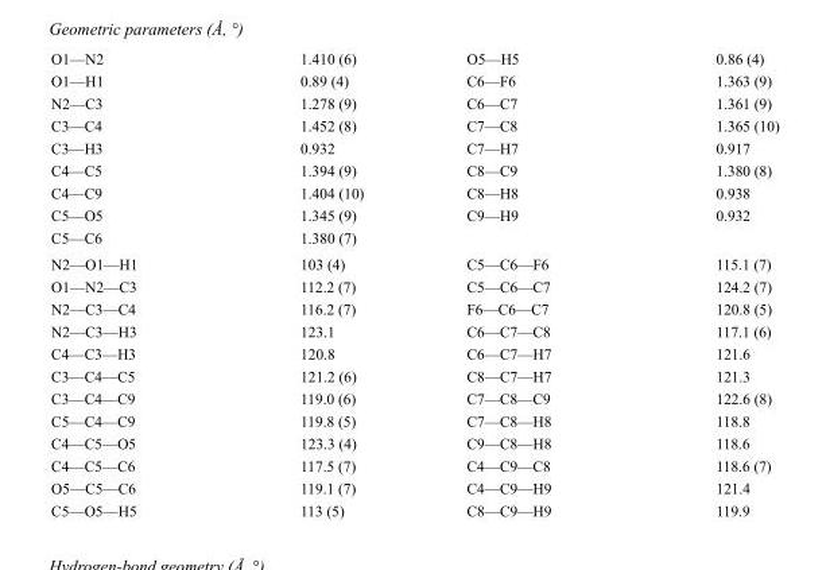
<table><tbody><tr><td>O1—N2</td><td>1.410 (6)</td><td>O5—H5</td><td>0.86 (4)</td></tr><tr><td>O1—H1</td><td>0.89 (4)</td><td>C6—F6</td><td>1.363 (9)</td></tr><tr><td>N2—C3</td><td>1.278 (9)</td><td>C6—C7</td><td>1.361 (9)</td></tr><tr><td>C3—C4</td><td>1.452 (8)</td><td>C7—C8</td><td>1.365 (10)</td></tr><tr><td>C3—H3</td><td>0.932</td><td>C7—H7</td><td>0.917</td></tr><tr><td>C4—C5</td><td>1.394 (9)</td><td>C8—C9</td><td>1.380 (8)</td></tr><tr><td>C4—C9</td><td>1.404 (10)</td><td>C8—H8</td><td>0.938</td></tr><tr><td>C5—O5</td><td>1.345 (9)</td><td>C9—H9</td><td>0.932</td></tr><tr><td>C5—C6</td><td>1.380 (7)</td><td></td><td></td></tr><tr><td>N2—O1—H1</td><td>103 (4)</td><td>C5—C6—F6</td><td>115.1 (7)</td></tr><tr><td>O1—N2—C3</td><td>112.2 (7)</td><td>C5—C6—C7</td><td>124.2 (7)</td></tr><tr><td>N2—C3—C4</td><td>116.2 (7)</td><td>F6—C6—C7</td><td>120.8 (5)</td></tr><tr><td>N2—C3—H3</td><td>123.1</td><td>C6—C7—C8</td><td>117.1 (6)</td></tr><tr><td>C4—C3—H3</td><td>120.8</td><td>C6—C7—H7</td><td>121.6</td></tr><tr><td>C3—C4—C5</td><td>121.2 (6)</td><td>C8—C7—H7</td><td>121.3</td></tr><tr><td>C3—C4—C9</td><td>119.0 (6)</td><td>C7—C8—C9</td><td>122.6 (8)</td></tr><tr><td>C5—C4—C9</td><td>119.8 (5)</td><td>C7—C8—H8</td><td>118.8</td></tr><tr><td>C4—C5—O5</td><td>123.3 (4)</td><td>C9—C8—H8</td><td>118.6</td></tr><tr><td>C4—C5—C6</td><td>117.5 (7)</td><td>C4—C9—C8</td><td>118.6 (7)</td></tr><tr><td>O5—C5—C6</td><td>119.1 (7)</td><td>C4—C9—H9</td><td>121.4</td></tr><tr><td>C5—O5—H5</td><td>113 (5)</td><td>C8—C9—H9</td><td>119.9</td></tr></tbody></table>